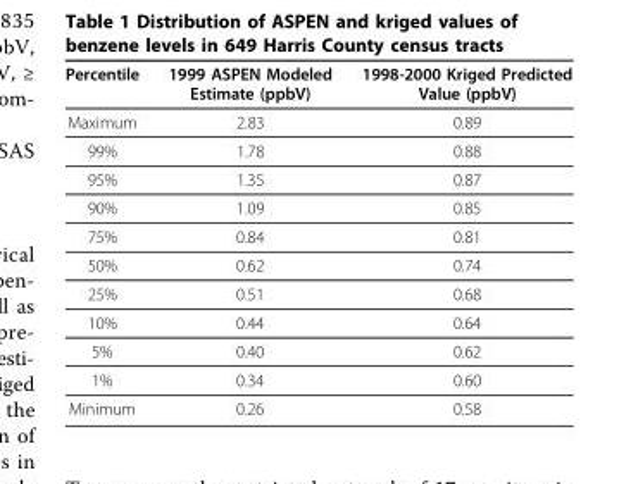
<table><thead><tr><td>Percentile</td><td>1999 ASPEN Modeled Estimate (ppbV)</td><td>1998-2000 Kriged Predicted Value (ppbV)</td></tr></thead><tbody><tr><td>Maximum</td><td>2.83</td><td>0.89</td></tr><tr><td>99%</td><td>1.78</td><td>0.88</td></tr><tr><td>95%</td><td>1.35</td><td>0.87</td></tr><tr><td>90%</td><td>1.09</td><td>0.85</td></tr><tr><td>75%</td><td>0.84</td><td>0.81</td></tr><tr><td>50%</td><td>0.62</td><td>0.74</td></tr><tr><td>25%</td><td>0.51</td><td>0.68</td></tr><tr><td>10%</td><td>0.44</td><td>0.64</td></tr><tr><td>5%</td><td>0.40</td><td>0.62</td></tr><tr><td>1%</td><td>0.34</td><td>0.60</td></tr><tr><td>Minimum</td><td>0.26</td><td>0.58</td></tr></tbody></table>